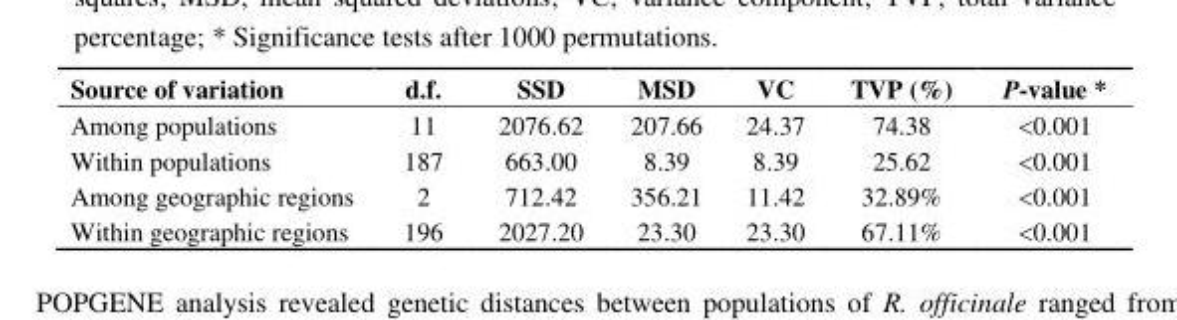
<table><thead><tr><td>Source of variation</td><td>d.f.</td><td>SSD</td><td>MSD</td><td>VC</td><td>TVP (%)</td><td>P-value *</td></tr></thead><tbody><tr><td>Among populations</td><td>11</td><td>2076.62</td><td>207.66</td><td>24.37</td><td>74.38</td><td>&lt;0.001</td></tr><tr><td>Within populations</td><td>187</td><td>663.00</td><td>8.39</td><td>8.39</td><td>25.62</td><td>&lt;0.001</td></tr><tr><td>Among geographic regions</td><td>2</td><td>712.42</td><td>356.21</td><td>11.42</td><td>32.89%</td><td>&lt;0.001</td></tr><tr><td>Within geographic regions</td><td>196</td><td>2027.20</td><td>23.30</td><td>23.30</td><td>67.11%</td><td>&lt;0.001</td></tr></tbody></table>